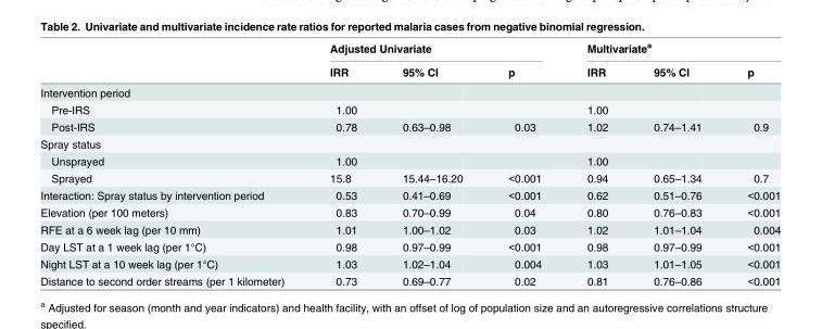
<table><thead><tr><td rowspan="2"></td><td colspan="3">Adjusted Univariate</td><td colspan="3">Multivariate<sup>a</sup></td></tr><tr><td>IRR</td><td>95% CI</td><td>p</td><td>IRR</td><td>95% CI</td><td>p</td></tr></thead><tbody><tr><td colspan="7">Intervention period</td></tr><tr><td>Pre-IRS</td><td>1.00</td><td></td><td></td><td>1.00</td><td></td><td></td></tr><tr><td>Post-IRS</td><td>0.78</td><td>0.63–0.98</td><td>0.03</td><td>1.02</td><td>0.74–1.41</td><td>0.9</td></tr><tr><td colspan="7">Spray status</td></tr><tr><td>Unsprayed</td><td>1.00</td><td></td><td></td><td>1.00</td><td></td><td></td></tr><tr><td>Sprayed</td><td>15.8</td><td>15.44–16.20</td><td>&lt;0.001</td><td>0.94</td><td>0.65–1.34</td><td>0.7</td></tr><tr><td>Interaction: Spray status by intervention period</td><td>0.53</td><td>0.41–0.69</td><td>&lt;0.001</td><td>0.62</td><td>0.51–0.76</td><td>&lt;0.001</td></tr><tr><td>Elevation (per 100 meters)</td><td>0.83</td><td>0.70–0.99</td><td>0.04</td><td>0.80</td><td>0.76–0.83</td><td>&lt;0.001</td></tr><tr><td>RFE at a 6 week lag (per 10 mm)</td><td>1.01</td><td>1.00–1.02</td><td>0.03</td><td>1.02</td><td>1.01–1.04</td><td>0.004</td></tr><tr><td>Day LST at a 1 week lag (per 1°C)</td><td>0.98</td><td>0.97–0.99</td><td>&lt;0.001</td><td>0.98</td><td>0.97–0.99</td><td>&lt;0.001</td></tr><tr><td>Night LST at a 10 week lag (per 1°C)</td><td>1.03</td><td>1.02–1.04</td><td>0.004</td><td>1.03</td><td>1.01–1.05</td><td>&lt;0.001</td></tr><tr><td>Distance to second order streams (per 1 kilometer)</td><td>0.73</td><td>0.69–0.77</td><td>0.02</td><td>0.81</td><td>0.76–0.86</td><td>&lt;0.001</td></tr></tbody></table>